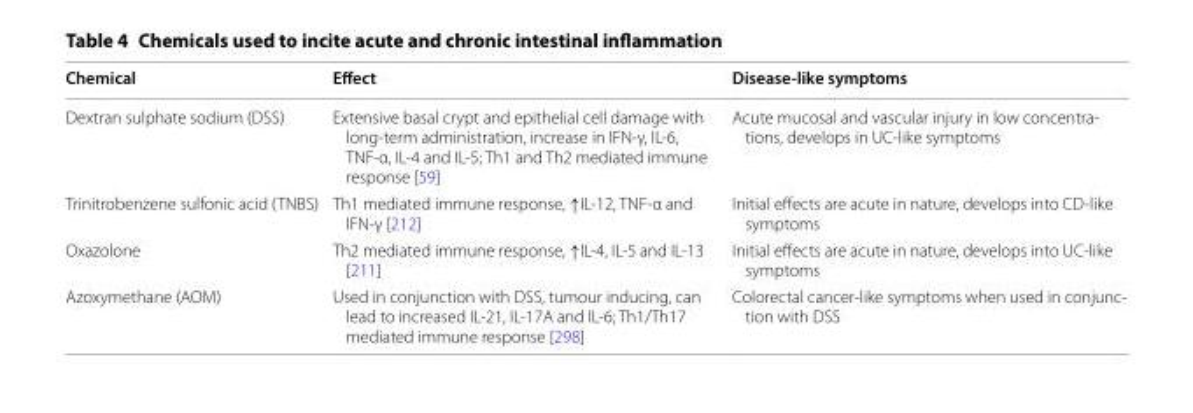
<table><thead><tr><td>Chemical</td><td>Effect</td><td>Disease-like symptoms</td></tr></thead><tbody><tr><td>Dextran sulphate sodium (DSS)</td><td>Extensive basal crypt and epithelial cell damage with long-term administration, increase in IFN-γ, IL-6, TNF-α, IL-4 and IL-5; Th1 and Th2 mediated immune response [59]</td><td>Acute mucosal and vascular injury in low concentra- tions, develops in UC-like symptoms</td></tr><tr><td>Trinitrobenzene sulfonic acid (TNBS)</td><td>Th1 mediated immune response, ↑IL-12, TNF-α and IFN-γ [212]</td><td>Initial effects are acute in nature, develops into CD-like symptoms</td></tr><tr><td>Oxazolone</td><td>Th2 mediated immune response, ↑IL-4, IL-5 and IL-13 [211]</td><td>Initial effects are acute in nature, develops into UC-like symptoms</td></tr><tr><td>Azoxymethane (AOM)</td><td>Used in conjunction with DSS, tumour inducing, can lead to increased IL-21, IL-17A and IL-6; Th1/Th17 mediated immune response [298]</td><td>Colorectal cancer-like symptoms when used in conjunc- tion with DSS</td></tr></tbody></table>